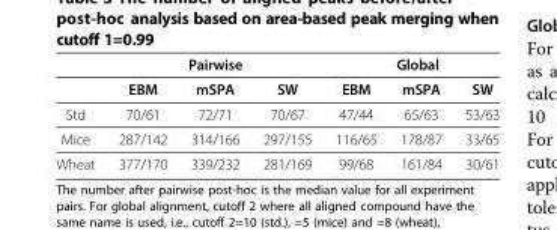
<table><thead><tr><td rowspan="2"></td><td colspan="3">Pairwise</td><td colspan="3">Global</td></tr><tr><td>EBM</td><td>mSPA</td><td>SW</td><td>EBM</td><td>mSPA</td><td>SW</td></tr></thead><tbody><tr><td>Std</td><td>70/61</td><td>72/71</td><td>70/67</td><td>47/44</td><td>65/63</td><td>53/63</td></tr><tr><td>Mice</td><td>287/142</td><td>314/166</td><td>297/155</td><td>116/65</td><td>178/87</td><td>33/65</td></tr><tr><td>Wheat</td><td>377/170</td><td>339/232</td><td>281/169</td><td>99/68</td><td>161/84</td><td>30/61</td></tr></tbody></table>